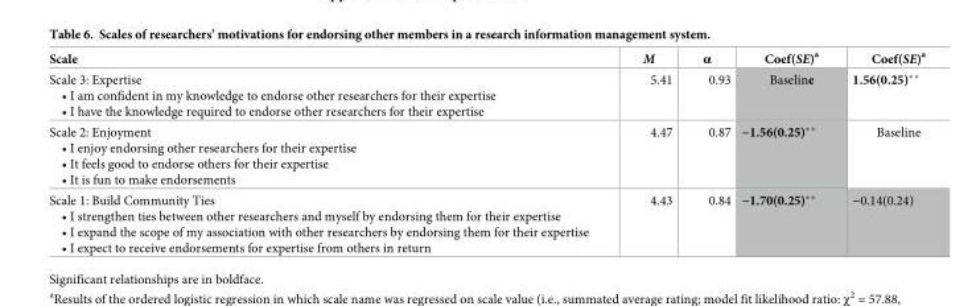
<table><thead><tr><td>Scale</td><td>M</td><td>α</td><td>Coef(SE)<sup>a</sup></td><td>Coef(SE)<sup>a</sup></td></tr></thead><tbody><tr><td>Scale 3: Expertise • I am confident in my knowledge to endorse other researchers for their expertise • I have the knowledge required to endorse other researchers for their expertise</td><td>5.41</td><td>0.93</td><td>Baseline</td><td>1.56(0.25)**</td></tr><tr><td>Scale 2: Enjoyment • I enjoy endorsing other researchers for their expertise • It feels good to endorse others for their expertise • It is fun to make endorsements</td><td>4.47</td><td>0.87</td><td>−1.56(0.25)**</td><td>Baseline</td></tr><tr><td>Scale 1: Build Community Ties • I strengthen ties between other researchers and myself by endorsing them for their expertise • I expand the scope of my association with other researchers by endorsing them for their expertise • I expect to receive endorsements for expertise from others in return</td><td>4.43</td><td>0.84</td><td>−1.70(0.25)**</td><td>−0.14(0.24)</td></tr></tbody></table>